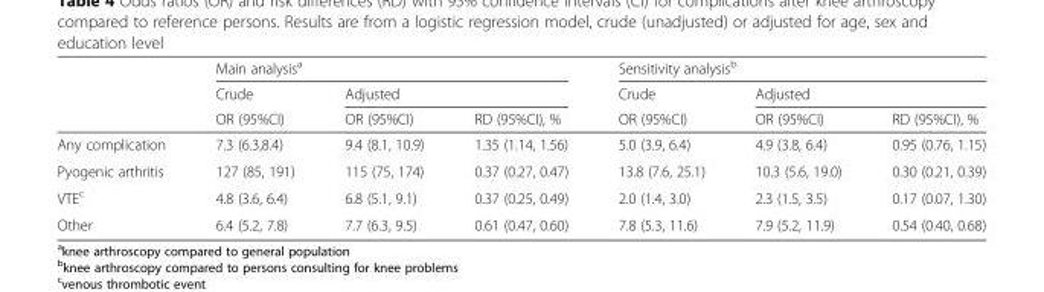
<table><thead><tr><td rowspan="3"></td><td colspan="3">Main analysis<sup>a</sup></td><td colspan="3">Sensitivity analysis<sup>b</sup></td></tr><tr><td rowspan="2">Crude OR (95%CI)</td><td colspan="2">Adjusted</td><td rowspan="2">Crude OR (95%CI)</td><td colspan="2">Adjusted</td></tr><tr><td>OR (95%CI)</td><td>RD (95%CI), %</td><td>OR (95%CI)</td><td>RD (95%CI), %</td></tr></thead><tbody><tr><td>Any complication</td><td>7.3 (6.3,8.4)</td><td>9.4 (8.1, 10.9)</td><td>1.35 (1.14, 1.56)</td><td>5.0 (3.9, 6.4)</td><td>4.9 (3.8, 6.4)</td><td>0.95 (0.76, 1.15)</td></tr><tr><td>Pyogenic arthritis</td><td>127 (85, 191)</td><td>115 (75, 174)</td><td>0.37 (0.27, 0.47)</td><td>13.8 (7.6, 25.1)</td><td>10.3 (5.6, 19.0)</td><td>0.30 (0.21, 0.39)</td></tr><tr><td>VTE<sup>c</sup></td><td>4.8 (3.6, 6.4)</td><td>6.8 (5.1, 9.1)</td><td>0.37 (0.25, 0.49)</td><td>2.0 (1.4, 3.0)</td><td>2.3 (1.5, 3.5)</td><td>0.17 (0.07, 1.30)</td></tr><tr><td>Other</td><td>6.4 (5.2, 7.8)</td><td>7.7 (6.3, 9.5)</td><td>0.61 (0.47, 0.60)</td><td>7.8 (5.3, 11.6)</td><td>7.9 (5.2, 11.9)</td><td>0.54 (0.40, 0.68)</td></tr></tbody></table>